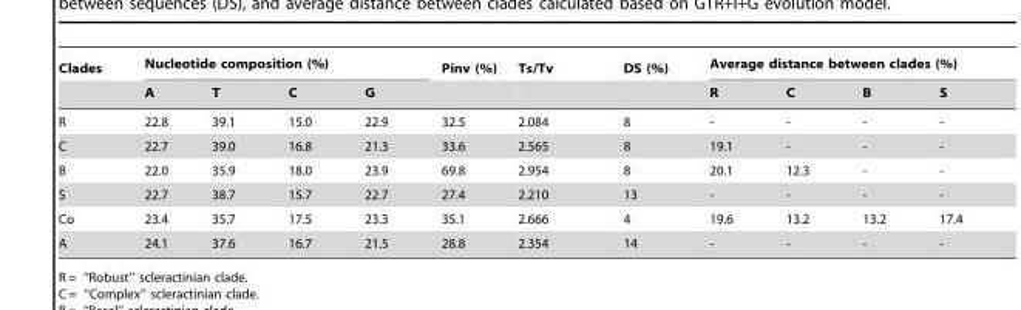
<table><thead><tr><td rowspan="2">Clades</td><td colspan="4">Nucleotide composition (%)</td><td rowspan="2">Pinv (%)</td><td rowspan="2">Ts/Tv</td><td rowspan="2">DS (%)</td><td colspan="4">Average distance between clades (%)</td></tr><tr><td>A</td><td>T</td><td>C</td><td>G</td><td>R</td><td>C</td><td>B</td><td>S</td></tr></thead><tbody><tr><td>R</td><td>22.8</td><td>39.1</td><td>15.0</td><td>22.9</td><td>32.5</td><td>2.084</td><td>8</td><td>-</td><td>-</td><td>-</td><td>-</td></tr><tr><td>C</td><td>22.7</td><td>39.0</td><td>16.8</td><td>21.3</td><td>33.6</td><td>2.565</td><td>8</td><td>19.1</td><td>-</td><td>-</td><td>-</td></tr><tr><td>B</td><td>22.0</td><td>35.9</td><td>18.0</td><td>23.9</td><td>69.8</td><td>2.954</td><td>8</td><td>20.1</td><td>12.3</td><td>-</td><td>-</td></tr><tr><td>S</td><td>22.7</td><td>38.7</td><td>15.7</td><td>22.7</td><td>27.4</td><td>2.210</td><td>13</td><td>-</td><td>-</td><td>-</td><td>-</td></tr><tr><td>Co</td><td>23.4</td><td>35.7</td><td>17.5</td><td>23.3</td><td>35.1</td><td>2.666</td><td>4</td><td>19.6</td><td>13.2</td><td>13.2</td><td>17.4</td></tr><tr><td>A</td><td>24.1</td><td>37.6</td><td>16.7</td><td>21.5</td><td>28.8</td><td>2.354</td><td>14</td><td>-</td><td>-</td><td>-</td><td>-</td></tr></tbody></table>